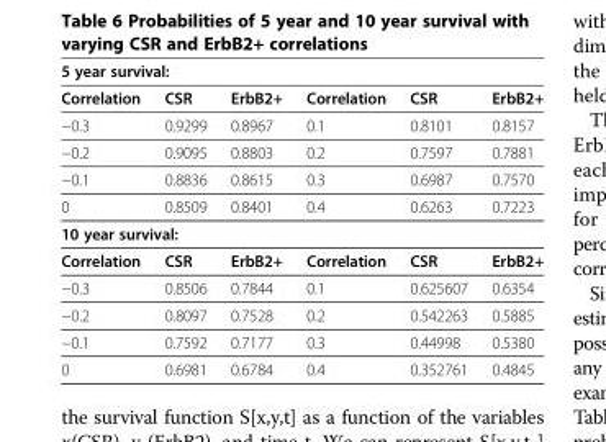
<table><thead><tr><td colspan="6">5 year survival:</td></tr><tr><td>Correlation</td><td>CSR</td><td>ErbB2+</td><td>Correlation</td><td>CSR</td><td>ErbB2+</td></tr></thead><tbody><tr><td>−0.3</td><td>0.9299</td><td>0.8967</td><td>0.1</td><td>0.8101</td><td>0.8157</td></tr><tr><td>−0.2</td><td>0.9095</td><td>0.8803</td><td>0.2</td><td>0.7597</td><td>0.7881</td></tr><tr><td>−0.1</td><td>0.8836</td><td>0.8615</td><td>0.3</td><td>0.6987</td><td>0.7570</td></tr><tr><td>0</td><td>0.8509</td><td>0.8401</td><td>0.4</td><td>0.6263</td><td>0.7223</td></tr><tr><td colspan="6">10 year survival:</td></tr><tr><td>Correlation</td><td>CSR</td><td>ErbB2+</td><td>Correlation</td><td>CSR</td><td>ErbB2+</td></tr><tr><td>−0.3</td><td>0.8506</td><td>0.7844</td><td>0.1</td><td>0.625607</td><td>0.6354</td></tr><tr><td>−0.2</td><td>0.8097</td><td>0.7528</td><td>0.2</td><td>0.542263</td><td>0.5885</td></tr><tr><td>−0.1</td><td>0.7592</td><td>0.7177</td><td>0.3</td><td>0.44998</td><td>0.5380</td></tr><tr><td>0</td><td>0.6981</td><td>0.6784</td><td>0.4</td><td>0.352761</td><td>0.4845</td></tr></tbody></table>